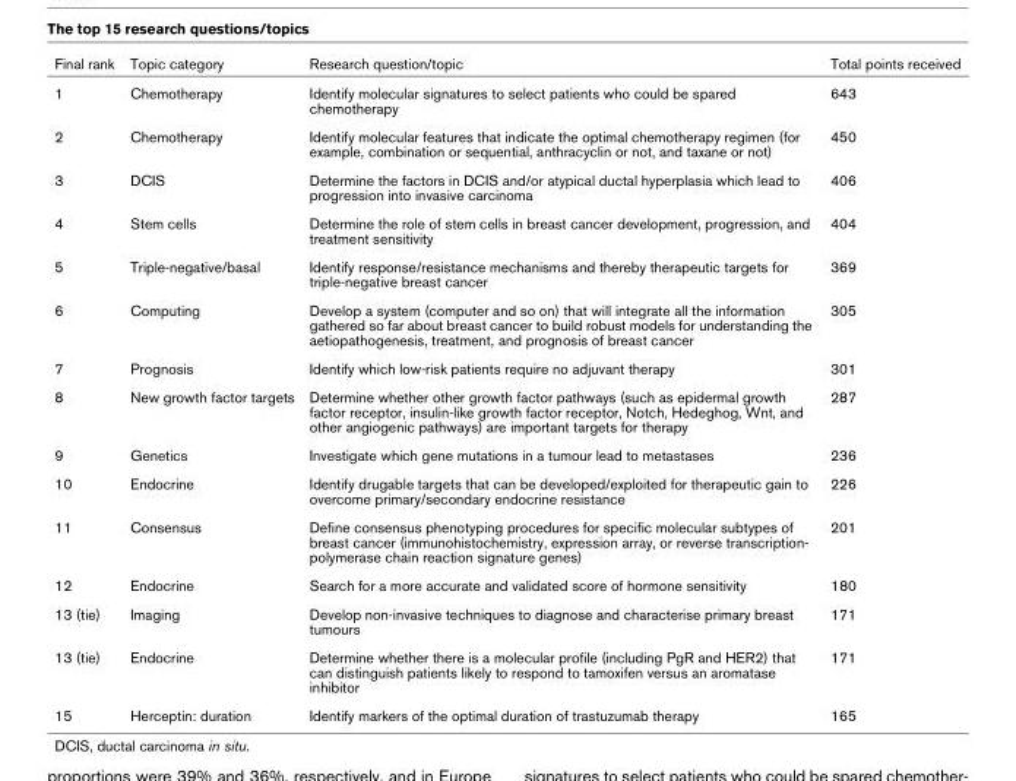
<table><thead><tr><td>Final rank</td><td>Topic category</td><td>Research question/topic</td><td>Total points received</td></tr></thead><tbody><tr><td>1</td><td>Chemotherapy</td><td>Identify molecular signatures to select patients who could be spared chemotherapy</td><td>643</td></tr><tr><td>2</td><td>Chemotherapy</td><td>Identify molecular features that indicate the optimal chemotherapy regimen (for example, combination or sequential, anthracyclin or not, and taxane or not)</td><td>450</td></tr><tr><td>3</td><td>DCIS</td><td>Determine the factors in DCIS and/or atypical ductal hyperplasia which lead to progression into invasive carcinoma</td><td>406</td></tr><tr><td>4</td><td>Stem cells</td><td>Determine the role of stem cells in breast cancer development, progression, and treatment sensitivity</td><td>404</td></tr><tr><td>5</td><td>Triple-negative/basal</td><td>Identify response/resistance mechanisms and thereby therapeutic targets for triple-negative breast cancer</td><td>369</td></tr><tr><td>6</td><td>Computing</td><td>Develop a system (computer and so on) that will integrate all the information gathered so far about breast cancer to build robust models for understanding the aetiopathogenesis, treatment, and prognosis of breast cancer</td><td>305</td></tr><tr><td>7</td><td>Prognosis</td><td>Identify which low-risk patients require no adjuvant therapy</td><td>301</td></tr><tr><td>8</td><td>New growth factor targets</td><td>Determine whether other growth factor pathways (such as epidermal growth factor receptor, insulin-like growth factor receptor, Notch, Hedeghog, Wnt, and other angiogenic pathways) are important targets for therapy</td><td>287</td></tr><tr><td>9</td><td>Genetics</td><td>Investigate which gene mutations in a tumour lead to metastases</td><td>236</td></tr><tr><td>10</td><td>Endocrine</td><td>Identify drugable targets that can be developed/exploited for therapeutic gain to overcome primary/secondary endocrine resistance</td><td>226</td></tr><tr><td>11</td><td>Consensus</td><td>Define consensus phenotyping procedures for specific molecular subtypes of breast cancer (immunohistochemistry, expression array, or reverse transcription- polymerase chain reaction signature genes)</td><td>201</td></tr><tr><td>12</td><td>Endocrine</td><td>Search for a more accurate and validated score of hormone sensitivity</td><td>180</td></tr><tr><td>13 (tie)</td><td>Imaging</td><td>Develop non-invasive techniques to diagnose and characterise primary breast tumours</td><td>171</td></tr><tr><td>13 (tie)</td><td>Endocrine</td><td>Determine whether there is a molecular profile (including PgR and HER2) that can distinguish patients likely to respond to tamoxifen versus an aromatase inhibitor</td><td>171</td></tr><tr><td>15</td><td>Herceptin: duration</td><td>Identify markers of the optimal duration of trastuzumab therapy</td><td>165</td></tr></tbody></table>